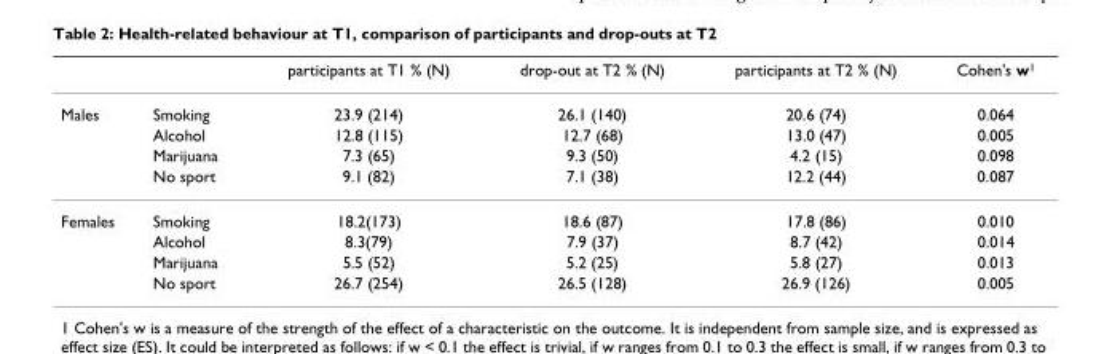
<table><thead><tr><td></td><td></td><td>participants at T1 % (N)</td><td>drop-out at T2 % (N)</td><td>participants at T2 % (N)</td><td>Cohen&#x27;s w<sup>1</sup></td></tr></thead><tbody><tr><td rowspan="4">Males</td><td>Smoking</td><td>23.9 (214)</td><td>26.1 (140)</td><td>20.6 (74)</td><td>0.064</td></tr><tr><td>Alcohol</td><td>12.8 (115)</td><td>12.7 (68)</td><td>13.0 (47)</td><td>0.005</td></tr><tr><td>Marijuana</td><td>7.3 (65)</td><td>9.3 (50)</td><td>4.2 (15)</td><td>0.098</td></tr><tr><td>No sport</td><td>9.1 (82)</td><td>7.1 (38)</td><td>12.2 (44)</td><td>0.087</td></tr><tr><td rowspan="4">Females</td><td>Smoking</td><td>18.2(173)</td><td>18.6 (87)</td><td>17.8 (86)</td><td>0.010</td></tr><tr><td>Alcohol</td><td>8.3(79)</td><td>7.9 (37)</td><td>8.7 (42)</td><td>0.014</td></tr><tr><td>Marijuana</td><td>5.5 (52)</td><td>5.2 (25)</td><td>5.8 (27)</td><td>0.013</td></tr><tr><td>No sport</td><td>26.7 (254)</td><td>26.5 (128)</td><td>26.9 (126)</td><td>0.005</td></tr></tbody></table>